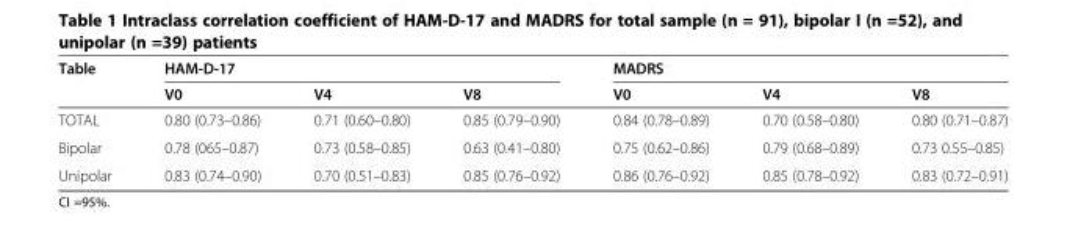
<table><thead><tr><td rowspan="2">Table</td><td colspan="3">HAM-D-17</td><td colspan="3">MADRS</td></tr><tr><td>V0</td><td>V4</td><td>V8</td><td>V0</td><td>V4</td><td>V8</td></tr></thead><tbody><tr><td>TOTAL</td><td>0.80 (0.73–0.86)</td><td>0.71 (0.60–0.80)</td><td>0.85 (0.79–0.90)</td><td>0.84 (0.78–0.89)</td><td>0.70 (0.58–0.80)</td><td>0.80 (0.71–0.87)</td></tr><tr><td>Bipolar</td><td>0.78 (065–0.87)</td><td>0.73 (0.58–0.85)</td><td>0.63 (0.41–0.80)</td><td>0.75 (0.62–0.86)</td><td>0.79 (0.68–0.89)</td><td>0.73 0.55–0.85)</td></tr><tr><td>Unipolar</td><td>0.83 (0.74–0.90)</td><td>0.70 (0.51–0.83)</td><td>0.85 (0.76–0.92)</td><td>0.86 (0.76–0.92)</td><td>0.85 (0.78–0.92)</td><td>0.83 (0.72–0.91)</td></tr></tbody></table>